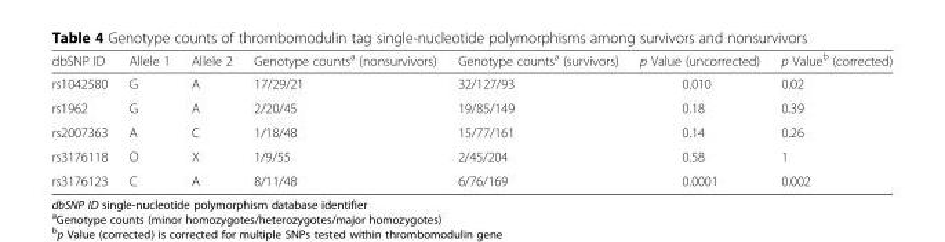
<table><thead><tr><td>dbSNP ID</td><td>Allele 1</td><td>Allele 2</td><td>Genotype counts<sup>a</sup> (nonsurvivors)</td><td>Genotype counts<sup>a</sup> (survivors)</td><td>p Value (uncorrected)</td><td>p Value<sup>b</sup> (corrected)</td></tr></thead><tbody><tr><td>rs1042580</td><td>G</td><td>A</td><td>17/29/21</td><td>32/127/93</td><td>0.010</td><td>0.02</td></tr><tr><td>rs1962</td><td>G</td><td>A</td><td>2/20/45</td><td>19/85/149</td><td>0.18</td><td>0.39</td></tr><tr><td>rs2007363</td><td>A</td><td>C</td><td>1/18/48</td><td>15/77/161</td><td>0.14</td><td>0.26</td></tr><tr><td>rs3176118</td><td>O</td><td>X</td><td>1/9/55</td><td>2/45/204</td><td>0.58</td><td>1</td></tr><tr><td>rs3176123</td><td>C</td><td>A</td><td>8/11/48</td><td>6/76/169</td><td>0.0001</td><td>0.002</td></tr></tbody></table>